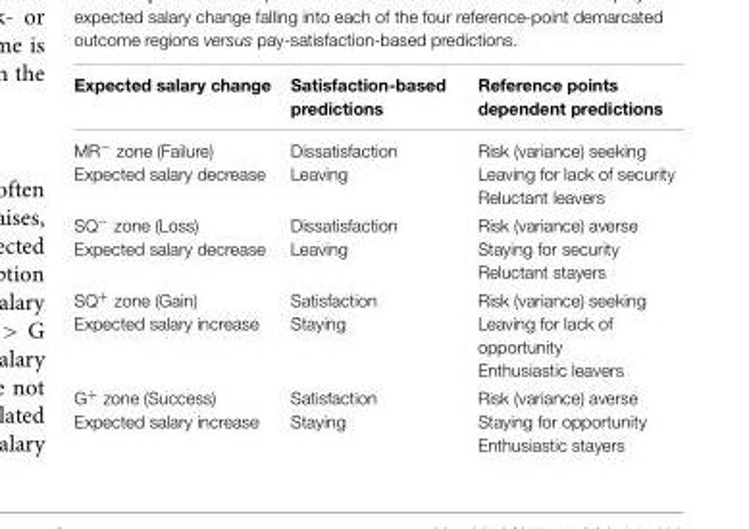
<table><thead><tr><td>Expected salary change</td><td>Satisfaction-based predictions</td><td>Reference points dependent predictions</td></tr></thead><tbody><tr><td>MR<sup>−</sup> zone (Failure) Expected salary decrease</td><td>Dissatisfaction Leaving</td><td>Risk (variance) seeking Leaving for lack of security Reluctant leavers</td></tr><tr><td>SQ<sup>−</sup> zone (Loss) Expected salary decrease</td><td>Dissatisfaction Leaving</td><td>Risk (variance) averse Staying for security Reluctant stayers</td></tr><tr><td>SQ<sup>+</sup> zone (Gain) Expected salary increase</td><td>Satisfaction Staying</td><td>Risk (variance) seeking Leaving for lack of opportunity Enthusiastic leavers</td></tr><tr><td>G<sup>+</sup> zone (Success) Expected salary increase</td><td>Satisfaction Staying</td><td>Risk (variance) averse Staying for opportunity Enthusiastic stayers</td></tr></tbody></table>